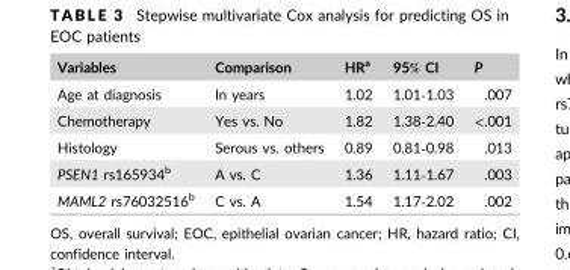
<table><thead><tr><td>Variables</td><td>Comparison</td><td>HR<sup>a</sup></td><td>95% CI</td><td>P</td></tr></thead><tbody><tr><td>Age at diagnosis</td><td>In years</td><td>1.02</td><td>1.01‐1.03</td><td>.007</td></tr><tr><td>Chemotherapy</td><td>Yes vs. No</td><td>1.82</td><td>1.38‐2.40</td><td>&lt;.001</td></tr><tr><td>Histology</td><td>Serous vs. others</td><td>0.89</td><td>0.81‐0.98</td><td>.013</td></tr><tr><td>PSEN1 rs165934<sup>b</sup></td><td>A vs. C</td><td>1.36</td><td>1.11‐1.67</td><td>.003</td></tr><tr><td>MAML2 rs76032516<sup>b</sup></td><td>C vs. A</td><td>1.54</td><td>1.17‐2.02</td><td>.002</td></tr></tbody></table>